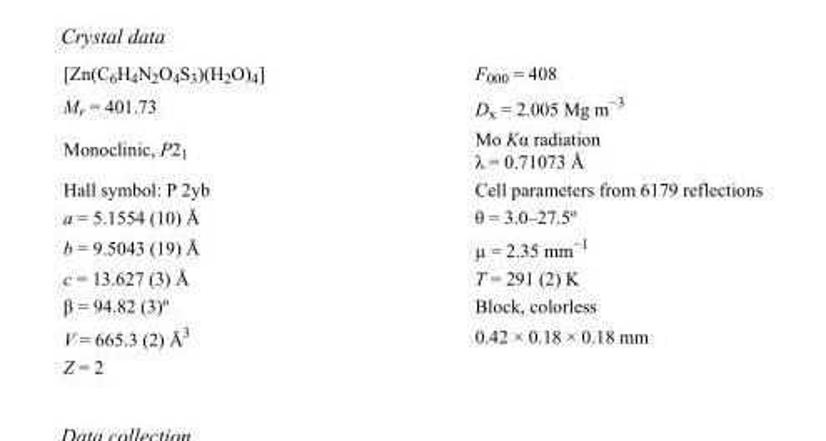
<table><tbody><tr><td>[Zn(C<sub>6</sub>H<sub>4</sub>N<sub>2</sub>O<sub>4</sub>S<sub>3</sub>)(H<sub>2</sub>O)<sub>4</sub>]</td><td>F<sub>000</sub> = 408</td></tr><tr><td>M<sub>r</sub> = 401.73</td><td>D<sub>x</sub> = 2.005 Mg m<sup>−3</sup></td></tr><tr><td>Monoclinic, P2<sub>1</sub></td><td>Mo Kα radiation λ = 0.71073 Å</td></tr><tr><td>Hall symbol: P 2yb</td><td>Cell parameters from 6179 reflections</td></tr><tr><td>a = 5.1554 (10) Å</td><td>θ = 3.0–27.5º</td></tr><tr><td>b = 9.5043 (19) Å</td><td>µ = 2.35 mm<sup>−1</sup></td></tr><tr><td>c = 13.627 (3) Å</td><td>T = 291 (2) K</td></tr><tr><td>β = 94.82 (3)º</td><td>Block, colorless</td></tr><tr><td>V = 665.3 (2) Å<sup>3</sup></td><td>0.42 × 0.18 × 0.18 mm</td></tr><tr><td>Z = 2</td><td></td></tr></tbody></table>